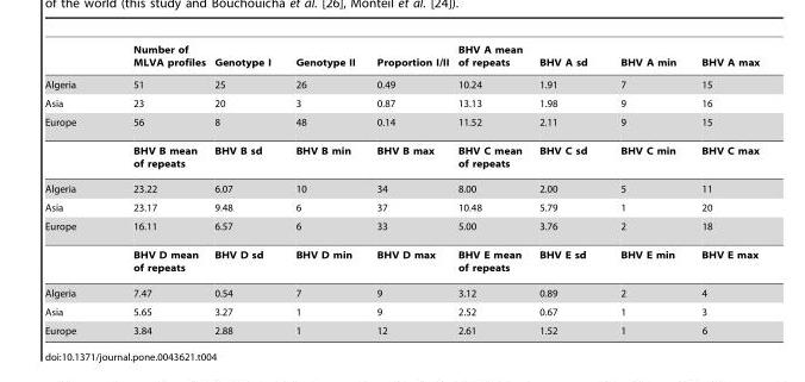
<table><thead><tr><td></td><td>Number of MLVA profiles</td><td>Genotype I</td><td>Genotype II</td><td>Proportion I/II</td><td>BHV A mean of repeats</td><td>BHV A sd</td><td>BHV A min</td><td>BHV A max</td></tr></thead><tbody><tr><td>Algeria</td><td>51</td><td>25</td><td>26</td><td>0.49</td><td>10.24</td><td>1.91</td><td>7</td><td>15</td></tr><tr><td>Asia</td><td>23</td><td>20</td><td>3</td><td>0.87</td><td>13.13</td><td>1.98</td><td>9</td><td>16</td></tr><tr><td rowspan="2">Europe</td><td>56</td><td>8</td><td>48</td><td>0.14</td><td>11.52</td><td>2.11</td><td>9</td><td>15</td></tr><tr><td>BHV B mean of repeats</td><td>BHV B sd</td><td>BHV B min</td><td>BHV B max</td><td>BHV C mean of repeats</td><td>BHV C sd</td><td>BHV C min</td><td>BHV C max</td></tr><tr><td>Algeria</td><td>23.22</td><td>6.07</td><td>10</td><td>34</td><td>8.00</td><td>2.00</td><td>5</td><td>11</td></tr><tr><td>Asia</td><td>23.17</td><td>9.48</td><td>6</td><td>37</td><td>10.48</td><td>5.79</td><td>1</td><td>20</td></tr><tr><td rowspan="2">Europe</td><td>16.11</td><td>6.57</td><td>6</td><td>33</td><td>5.00</td><td>3.76</td><td>2</td><td>18</td></tr><tr><td>BHV D mean of repeats</td><td>BHV D sd</td><td>BHV D min</td><td>BHV D max</td><td>BHV E mean of repeats</td><td>BHV E sd</td><td>BHV E min</td><td>BHV E max</td></tr><tr><td>Algeria</td><td>7.47</td><td>0.54</td><td>7</td><td>9</td><td>3.12</td><td>0.89</td><td>2</td><td>4</td></tr><tr><td>Asia</td><td>5.65</td><td>3.27</td><td>1</td><td>9</td><td>2.52</td><td>0.67</td><td>1</td><td>3</td></tr><tr><td>Europe</td><td>3.84</td><td>2.88</td><td>1</td><td>12</td><td>2.61</td><td>1.52</td><td>1</td><td>6</td></tr></tbody></table>